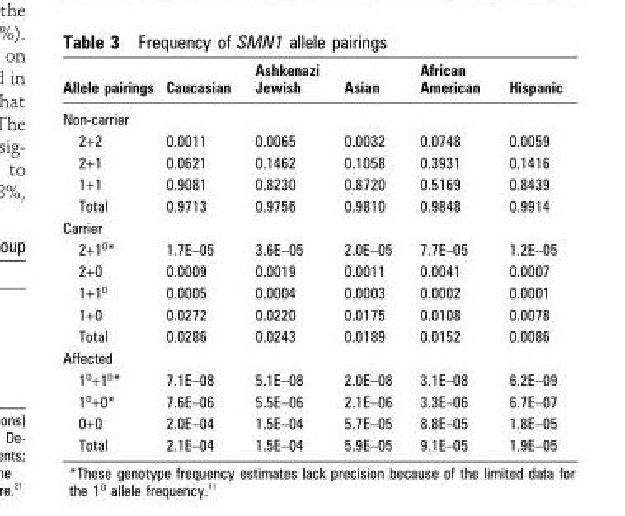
<table><thead><tr><td>Allele pairings</td><td>Caucasian</td><td>Ashkenazi Jewish</td><td>Asian</td><td>African American</td><td>Hispanic</td></tr></thead><tbody><tr><td colspan="6">Non-carrier</td></tr><tr><td>2+2</td><td>0.0011</td><td>0.0065</td><td>0.0032</td><td>0.0748</td><td>0.0059</td></tr><tr><td>2+1</td><td>0.0621</td><td>0.1462</td><td>0.1058</td><td>0.3931</td><td>0.1416</td></tr><tr><td>1+1</td><td>0.9081</td><td>0.8230</td><td>0.8720</td><td>0.5169</td><td>0.8439</td></tr><tr><td>Total</td><td>0.9713</td><td>0.9756</td><td>0.9810</td><td>0.9848</td><td>0.9914</td></tr><tr><td colspan="6">Carrier</td></tr><tr><td>2+1<sup>D</sup>*</td><td>1.7E–05</td><td>3.6E–05</td><td>2.0E–05</td><td>7.7E–05</td><td>1.2E–05</td></tr><tr><td>2+0</td><td>0.0009</td><td>0.0019</td><td>0.0011</td><td>0.0041</td><td>0.0007</td></tr><tr><td>1+1<sup>D</sup></td><td>0.0005</td><td>0.0004</td><td>0.0003</td><td>0.0002</td><td>0.0001</td></tr><tr><td>1+0</td><td>0.0272</td><td>0.0220</td><td>0.0175</td><td>0.0108</td><td>0.0078</td></tr><tr><td>Total</td><td>0.0286</td><td>0.0243</td><td>0.0189</td><td>0.0152</td><td>0.0086</td></tr><tr><td colspan="6">Affected</td></tr><tr><td>1<sup>D</sup>+1<sup>D</sup>*</td><td>7.1E–08</td><td>5.1E–08</td><td>2.0E–08</td><td>3.1E–08</td><td>6.2E–09</td></tr><tr><td>1<sup>D</sup>+0*</td><td>7.6E–06</td><td>5.5E–06</td><td>2.1E–06</td><td>3.3E–06</td><td>6.7E–07</td></tr><tr><td>0+0</td><td>2.0E–04</td><td>1.5E–04</td><td>5.7E–05</td><td>8.8E–05</td><td>1.8E–05</td></tr><tr><td>Total</td><td>2.1E–04</td><td>1.5E–04</td><td>5.9E–05</td><td>9.1E–05</td><td>1.9E–05</td></tr></tbody></table>